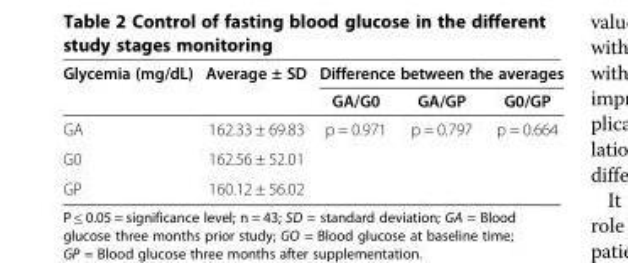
<table><thead><tr><td rowspan="2">Glycemia (mg/dL)</td><td rowspan="2">Average ± SD</td><td colspan="3">Difference between the averages</td></tr><tr><td>GA/G0</td><td>GA/GP</td><td>G0/GP</td></tr></thead><tbody><tr><td>GA</td><td>162.33 ± 69.83</td><td rowspan="2">p = 0.971</td><td rowspan="2">p = 0.797</td><td rowspan="2">p = 0.664</td></tr><tr><td>G0</td><td>162.56 ± 52.01</td></tr><tr><td>GP</td><td>160.12 ± 56.02</td><td></td><td></td><td></td></tr></tbody></table>